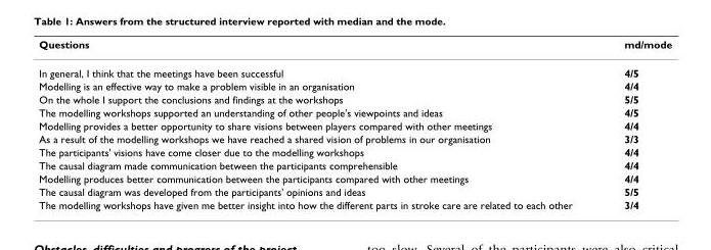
<table><thead><tr><td>Questions</td><td>md/mode</td></tr></thead><tbody><tr><td>In general, I think that the meetings have been successful</td><td>4/5</td></tr><tr><td>Modelling is an effective way to make a problem visible in an organisation</td><td>4/4</td></tr><tr><td>On the whole I support the conclusions and findings at the workshops</td><td>5/5</td></tr><tr><td>The modelling workshops supported an understanding of other people&#x27;s viewpoints and ideas</td><td>4/5</td></tr><tr><td>Modelling provides a better opportunity to share visions between players compared with other meetings</td><td>4/4</td></tr><tr><td>As a result of the modelling workshops we have reached a shared vision of problems in our organisation</td><td>3/3</td></tr><tr><td>The participants&#x27; visions have come closer due to the modelling workshops</td><td>4/4</td></tr><tr><td>The causal diagram made communication between the participants comprehensible</td><td>4/4</td></tr><tr><td>Modelling produces better communication between the participants compared with other meetings</td><td>4/4</td></tr><tr><td>The causal diagram was developed from the participants&#x27; opinions and ideas</td><td>5/5</td></tr><tr><td>The modelling workshops have given me better insight into how the different parts in stroke care are related to each other</td><td>3/4</td></tr></tbody></table>